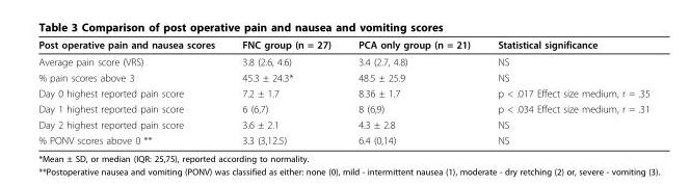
<table><thead><tr><td>Post operative pain and nausea scores</td><td>FNC group (n = 27)</td><td>PCA only group (n = 21)</td><td>Statistical significance</td></tr></thead><tbody><tr><td>Average pain score (VRS)</td><td>3.8 (2.6, 4.6)</td><td>3.4 (2.7, 4.8)</td><td>NS</td></tr><tr><td>% pain scores above 3</td><td>45.3 ± 24.3*</td><td>48.5 ± 25.9</td><td>NS</td></tr><tr><td>Day 0 highest reported pain score</td><td>7.2 ± 1.7</td><td>8.36 ± 1.7</td><td>p &lt; .017 Effect size medium, r = .35</td></tr><tr><td>Day 1 highest reported pain score</td><td>6 (6,7)</td><td>8 (6,9)</td><td>p &lt; .034 Effect size medium, r = .31</td></tr><tr><td>Day 2 highest reported pain score</td><td>3.6 ± 2.1</td><td>4.3 ± 2.8</td><td>NS</td></tr><tr><td>% PONV scores above 0 **</td><td>3.3 (3,12.5)</td><td>6.4 (0,14)</td><td>NS</td></tr></tbody></table>